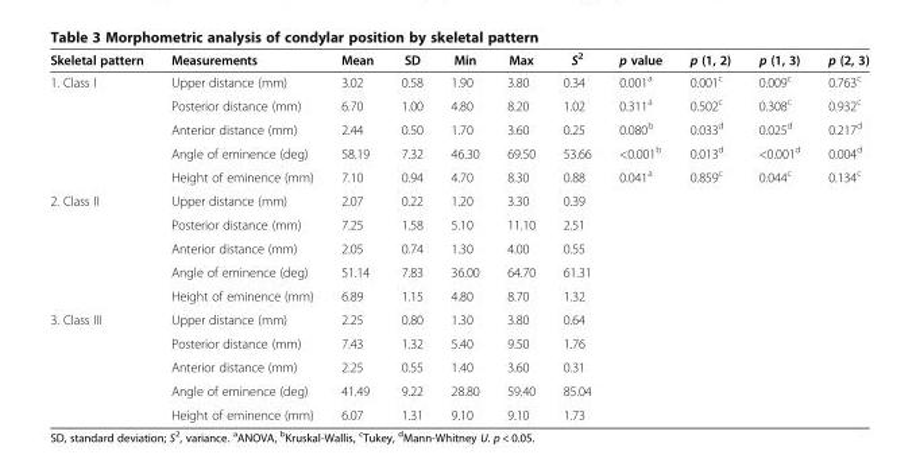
<table><thead><tr><td>Skeletal pattern</td><td>Measurements</td><td>Mean</td><td>SD</td><td>Min</td><td>Max</td><td>S<sup>2</sup></td><td>p value</td><td>p (1, 2)</td><td>p (1, 3)</td><td>p (2, 3)</td></tr></thead><tbody><tr><td rowspan="5">1. Class I</td><td>Upper distance (mm)</td><td>3.02</td><td>0.58</td><td>1.90</td><td>3.80</td><td>0.34</td><td>0.001<sup>a</sup></td><td>0.001<sup>c</sup></td><td>0.009<sup>c</sup></td><td>0.763<sup>c</sup></td></tr><tr><td>Posterior distance (mm)</td><td>6.70</td><td>1.00</td><td>4.80</td><td>8.20</td><td>1.02</td><td>0.311<sup>a</sup></td><td>0.502<sup>c</sup></td><td>0.308<sup>c</sup></td><td>0.932<sup>c</sup></td></tr><tr><td>Anterior distance (mm)</td><td>2.44</td><td>0.50</td><td>1.70</td><td>3.60</td><td>0.25</td><td>0.080<sup>b</sup></td><td>0.033<sup>d</sup></td><td>0.025<sup>d</sup></td><td>0.217<sup>d</sup></td></tr><tr><td>Angle of eminence (deg)</td><td>58.19</td><td>7.32</td><td>46.30</td><td>69.50</td><td>53.66</td><td>&lt;0.001<sup>b</sup></td><td>0.013<sup>d</sup></td><td>&lt;0.001<sup>d</sup></td><td>0.004<sup>d</sup></td></tr><tr><td>Height of eminence (mm)</td><td>7.10</td><td>0.94</td><td>4.70</td><td>8.30</td><td>0.88</td><td>0.041<sup>a</sup></td><td>0.859<sup>c</sup></td><td>0.044<sup>c</sup></td><td>0.134<sup>c</sup></td></tr><tr><td rowspan="5">2. Class II</td><td>Upper distance (mm)</td><td>2.07</td><td>0.22</td><td>1.20</td><td>3.30</td><td>0.39</td><td></td><td></td><td></td><td></td></tr><tr><td>Posterior distance (mm)</td><td>7.25</td><td>1.58</td><td>5.10</td><td>11.10</td><td>2.51</td><td></td><td></td><td></td><td></td></tr><tr><td>Anterior distance (mm)</td><td>2.05</td><td>0.74</td><td>1.30</td><td>4.00</td><td>0.55</td><td></td><td></td><td></td><td></td></tr><tr><td>Angle of eminence (deg)</td><td>51.14</td><td>7.83</td><td>36.00</td><td>64.70</td><td>61.31</td><td></td><td></td><td></td><td></td></tr><tr><td>Height of eminence (mm)</td><td>6.89</td><td>1.15</td><td>4.80</td><td>8.70</td><td>1.32</td><td></td><td></td><td></td><td></td></tr><tr><td rowspan="5">3. Class III</td><td>Upper distance (mm)</td><td>2.25</td><td>0.80</td><td>1.30</td><td>3.80</td><td>0.64</td><td></td><td></td><td></td><td></td></tr><tr><td>Posterior distance (mm)</td><td>7.43</td><td>1.32</td><td>5.40</td><td>9.50</td><td>1.76</td><td></td><td></td><td></td><td></td></tr><tr><td>Anterior distance (mm)</td><td>2.25</td><td>0.55</td><td>1.40</td><td>3.60</td><td>0.31</td><td></td><td></td><td></td><td></td></tr><tr><td>Angle of eminence (deg)</td><td>41.49</td><td>9.22</td><td>28.80</td><td>59.40</td><td>85.04</td><td></td><td></td><td></td><td></td></tr><tr><td>Height of eminence (mm)</td><td>6.07</td><td>1.31</td><td>9.10</td><td>9.10</td><td>1.73</td><td></td><td></td><td></td><td></td></tr></tbody></table>